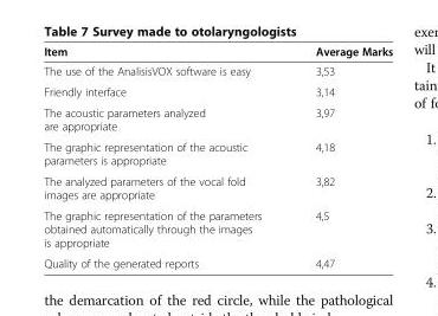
<table><thead><tr><td>Item</td><td>Average Marks</td></tr></thead><tbody><tr><td>The use of the AnalisisVOX software is easy</td><td>3,53</td></tr><tr><td>Friendly interface</td><td>3,14</td></tr><tr><td>The acoustic parameters analyzed are appropriate</td><td>3,97</td></tr><tr><td>The graphic representation of the acoustic parameters is appropriate</td><td>4,18</td></tr><tr><td>The analyzed parameters of the vocal fold images are appropriate</td><td>3,82</td></tr><tr><td>The graphic representation of the parameters obtained automatically through the images is appropriate</td><td>4,5</td></tr><tr><td>Quality of the generated reports</td><td>4,47</td></tr></tbody></table>